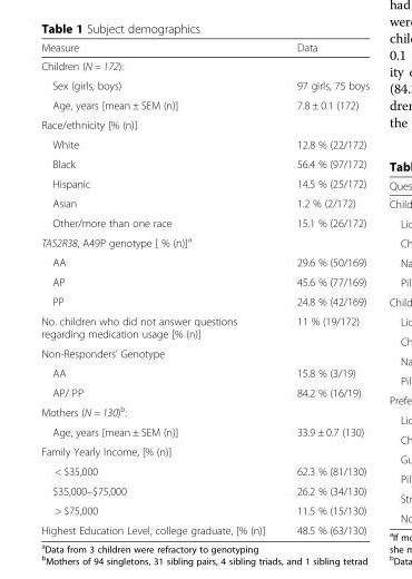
<table><thead><tr><td>Measure</td><td>Data</td></tr></thead><tbody><tr><td colspan="2">Children (N = 172):</td></tr><tr><td>Sex (girls, boys)</td><td>97 girls, 75 boys</td></tr><tr><td>Age, years [mean ± SEM (n)]</td><td>7.8 ± 0.1 (172)</td></tr><tr><td colspan="2">Race/ethnicity [% (n)]</td></tr><tr><td>White</td><td>12.8 % (22/172)</td></tr><tr><td>Black</td><td>56.4 % (97/172)</td></tr><tr><td>Hispanic</td><td>14.5 % (25/172)</td></tr><tr><td>Asian</td><td>1.2 % (2/172)</td></tr><tr><td>Other/more than one race</td><td>15.1 % (26/172)</td></tr><tr><td colspan="2">TAS2R38, A49P genotype [ % (n)]<sup>a</sup></td></tr><tr><td>AA</td><td>29.6 % (50/169)</td></tr><tr><td>AP</td><td>45.6 % (77/169)</td></tr><tr><td>PP</td><td>24.8 % (42/169)</td></tr><tr><td>No. children who did not answer questions regarding medication usage [% (n)]</td><td>11 % (19/172)</td></tr><tr><td colspan="2">Non-Responders’ Genotype</td></tr><tr><td>AA</td><td>15.8 % (3/19)</td></tr><tr><td>AP/ PP</td><td>84.2 % (16/19)</td></tr><tr><td colspan="2">Mothers (N = 130)<sup>b</sup>:</td></tr><tr><td>Age, years [mean ± SEM (n)]</td><td>33.9 ± 0.7 (130)</td></tr><tr><td colspan="2">Family Yearly Income, [% (n)]</td></tr><tr><td>&lt; $35,000</td><td>62.3 % (81/130)</td></tr><tr><td>$35,000–$75,000</td><td>26.2 % (34/130)</td></tr><tr><td>&gt; $75,000</td><td>11.5 % (15/130)</td></tr><tr><td>Highest Education Level, college graduate, [% (n)]</td><td>48.5 % (63/130)</td></tr></tbody></table>